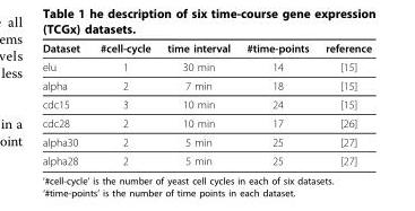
<table><thead><tr><td>Dataset</td><td>#cell-cycle</td><td>time interval</td><td>#time-points</td><td>reference</td></tr></thead><tbody><tr><td>elu</td><td>1</td><td>30 min</td><td>14</td><td>[15]</td></tr><tr><td>alpha</td><td>2</td><td>7 min</td><td>18</td><td>[15]</td></tr><tr><td>cdc15</td><td>3</td><td>10 min</td><td>24</td><td>[15]</td></tr><tr><td>cdc28</td><td>2</td><td>10 min</td><td>17</td><td>[26]</td></tr><tr><td>alpha30</td><td>2</td><td>5 min</td><td>25</td><td>[27]</td></tr><tr><td>alpha28</td><td>2</td><td>5 min</td><td>25</td><td>[27]</td></tr></tbody></table>